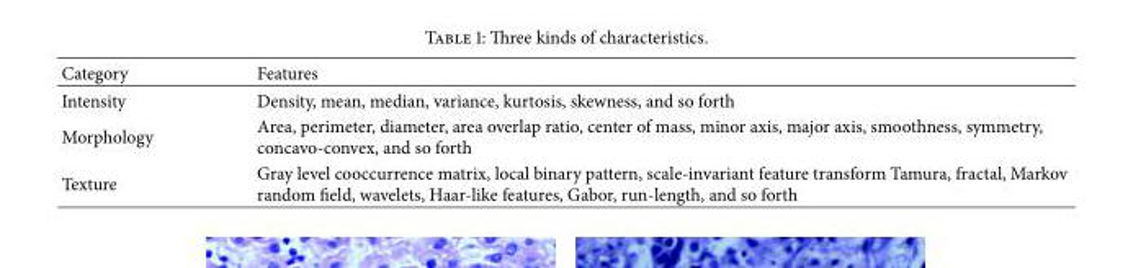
<table><thead><tr><td>Category</td><td>Features</td></tr></thead><tbody><tr><td>Intensity</td><td>Density, mean, median, variance, kurtosis, skewness, and so forth</td></tr><tr><td>Morphology</td><td>Area, perimeter, diameter, area overlap ratio, center of mass, minor axis, major axis, smoothness, symmetry, concavo-convex, and so forth</td></tr><tr><td>Texture</td><td>Gray level cooccurrence matrix, local binary pattern, scale-invariant feature transform Tamura, fractal, Markov random field, wavelets, Haar-like features, Gabor, run-length, and so forth</td></tr></tbody></table>